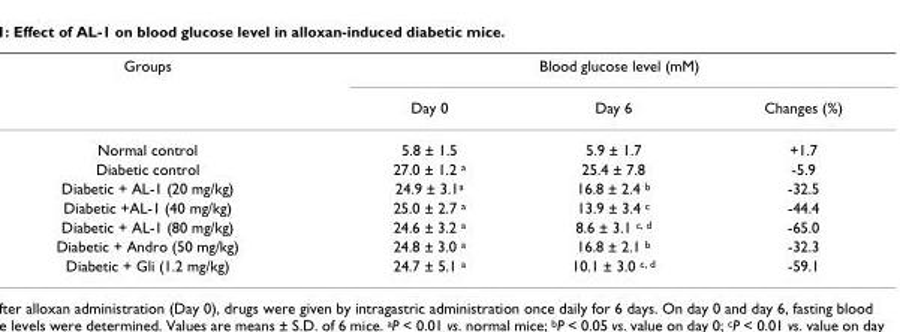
<table><thead><tr><td rowspan="2">Groups</td><td colspan="3">Blood glucose level (mM)</td></tr><tr><td>Day 0</td><td>Day 6</td><td>Changes (%)</td></tr></thead><tbody><tr><td>Normal control</td><td>5.8 ± 1.5</td><td>5.9 ± 1.7</td><td>+1.7</td></tr><tr><td>Diabetic control</td><td>27.0 ± 1.2 <sup>a</sup></td><td>25.4 ± 7.8</td><td>-5.9</td></tr><tr><td>Diabetic + AL-1 (20 mg/kg)</td><td>24.9 ± 3.1<sup>a</sup></td><td>16.8 ± 2.4 <sup>b</sup></td><td>-32.5</td></tr><tr><td>Diabetic +AL-1 (40 mg/kg)</td><td>25.0 ± 2.7 <sup>a</sup></td><td>13.9 ± 3.4 <sup>c</sup></td><td>-44.4</td></tr><tr><td>Diabetic + AL-1 (80 mg/kg)</td><td>24.6 ± 3.2 <sup>a</sup></td><td>8.6 ± 3.1 <sup>c, d</sup></td><td>-65.0</td></tr><tr><td>Diabetic + Andro (50 mg/kg)</td><td>24.8 ± 3.0 <sup>a</sup></td><td>16.8 ± 2.1 <sup>b</sup></td><td>-32.3</td></tr><tr><td>Diabetic + Gli (1.2 mg/kg)</td><td>24.7 ± 5.1 <sup>a</sup></td><td>10.1 ± 3.0 <sup>c, d</sup></td><td>-59.1</td></tr></tbody></table>